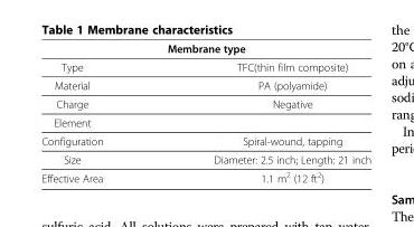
<table><thead><tr><td colspan="2">Membrane type</td></tr><tr><td>Type</td><td>TFC(thin film composite)</td></tr></thead><tbody><tr><td>Material</td><td>PA (polyamide)</td></tr><tr><td>Charge</td><td>Negative</td></tr><tr><td colspan="2">Element</td></tr><tr><td>Configuration</td><td>Spiral-wound, tapping</td></tr><tr><td>Size</td><td>Diameter: 2.5 inch; Length: 21 inch</td></tr><tr><td>Effective Area</td><td>1.1 m<sup>2</sup> (12 ft<sup>2</sup>)</td></tr></tbody></table>